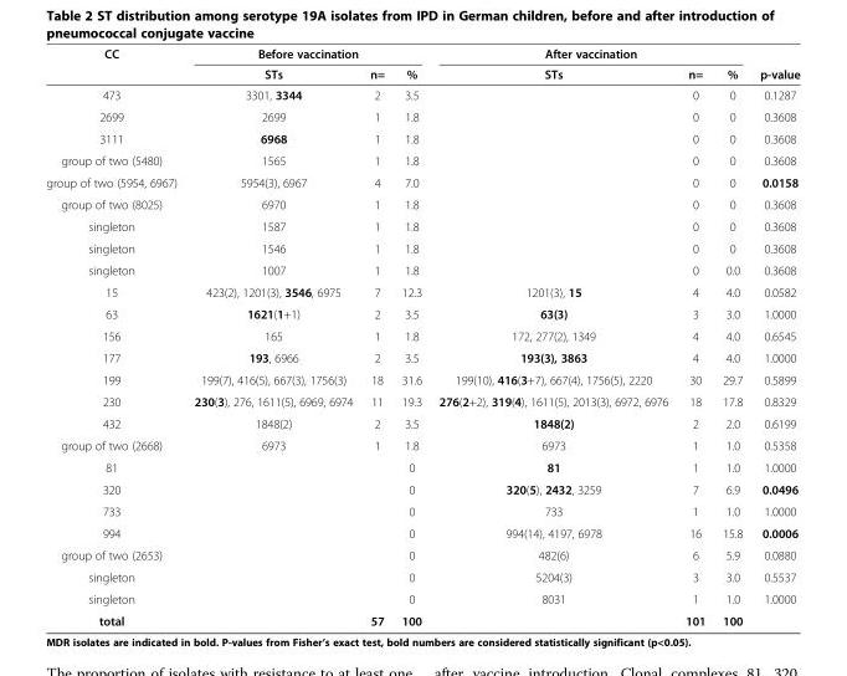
<table><thead><tr><td rowspan="2">CC</td><td colspan="3">Before vaccination</td><td colspan="3">After vaccination</td><td rowspan="2">p-value</td></tr><tr><td>STs</td><td>n=</td><td>%</td><td>STs</td><td>n=</td><td>%</td></tr></thead><tbody><tr><td>473</td><td>3301, 3344</td><td>2</td><td>3.5</td><td></td><td>0</td><td>0</td><td>0.1287</td></tr><tr><td>2699</td><td>2699</td><td>1</td><td>1.8</td><td></td><td>0</td><td>0</td><td>0.3608</td></tr><tr><td>3111</td><td>6968</td><td>1</td><td>1.8</td><td></td><td>0</td><td>0</td><td>0.3608</td></tr><tr><td>group of two (5480)</td><td>1565</td><td>1</td><td>1.8</td><td></td><td>0</td><td>0</td><td>0.3608</td></tr><tr><td>group of two (5954, 6967)</td><td>5954(3), 6967</td><td>4</td><td>7.0</td><td></td><td>0</td><td>0</td><td>0.0158</td></tr><tr><td>group of two (8025)</td><td>6970</td><td>1</td><td>1.8</td><td></td><td>0</td><td>0</td><td>0.3608</td></tr><tr><td>singleton</td><td>1587</td><td>1</td><td>1.8</td><td></td><td>0</td><td>0</td><td>0.3608</td></tr><tr><td>singleton</td><td>1546</td><td>1</td><td>1.8</td><td></td><td>0</td><td>0</td><td>0.3608</td></tr><tr><td>singleton</td><td>1007</td><td>1</td><td>1.8</td><td></td><td>0</td><td>0.0</td><td>0.3608</td></tr><tr><td>15</td><td>423(2), 1201(3), 3546, 6975</td><td>7</td><td>12.3</td><td>1201(3), 15</td><td>4</td><td>4.0</td><td>0.0582</td></tr><tr><td>63</td><td>1621(1+1)</td><td>2</td><td>3.5</td><td>63(3)</td><td>3</td><td>3.0</td><td>1.0000</td></tr><tr><td>156</td><td>165</td><td>1</td><td>1.8</td><td>172, 277(2), 1349</td><td>4</td><td>4.0</td><td>0.6545</td></tr><tr><td>177</td><td>193, 6966</td><td>2</td><td>3.5</td><td>193(3), 3863</td><td>4</td><td>4.0</td><td>1.0000</td></tr><tr><td>199</td><td>199(7), 416(5), 667(3), 1756(3)</td><td>18</td><td>31.6</td><td>199(10), 416(3+7), 667(4), 1756(5), 2220</td><td>30</td><td>29.7</td><td>0.5899</td></tr><tr><td>230</td><td>230(3), 276, 1611(5), 6969, 6974</td><td>11</td><td>19.3</td><td>276(2+2), 319(4), 1611(5), 2013(3), 6972, 6976</td><td>18</td><td>17.8</td><td>0.8329</td></tr><tr><td>432</td><td>1848(2)</td><td>2</td><td>3.5</td><td>1848(2)</td><td>2</td><td>2.0</td><td>0.6199</td></tr><tr><td>group of two (2668)</td><td>6973</td><td>1</td><td>1.8</td><td>6973</td><td>1</td><td>1.0</td><td>0.5358</td></tr><tr><td>81</td><td></td><td></td><td>0</td><td>81</td><td>1</td><td>1.0</td><td>1.0000</td></tr><tr><td>320</td><td></td><td></td><td>0</td><td>320(5), 2432, 3259</td><td>7</td><td>6.9</td><td>0.0496</td></tr><tr><td>733</td><td></td><td></td><td>0</td><td>733</td><td>1</td><td>1.0</td><td>1.0000</td></tr><tr><td>994</td><td></td><td></td><td>0</td><td>994(14), 4197, 6978</td><td>16</td><td>15.8</td><td>0.0006</td></tr><tr><td>group of two (2653)</td><td></td><td></td><td>0</td><td>482(6)</td><td>6</td><td>5.9</td><td>0.0880</td></tr><tr><td>singleton</td><td></td><td></td><td>0</td><td>5204(3)</td><td>3</td><td>3.0</td><td>0.5537</td></tr><tr><td>singleton</td><td></td><td></td><td>0</td><td>8031</td><td>1</td><td>1.0</td><td>1.0000</td></tr><tr><td>total</td><td></td><td>57</td><td>100</td><td></td><td>101</td><td>100</td><td></td></tr></tbody></table>